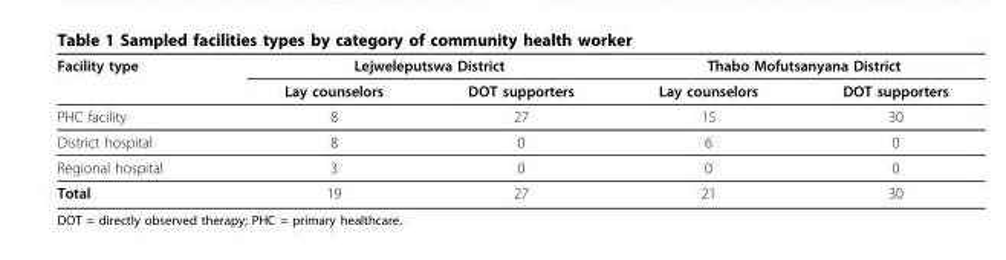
<table><thead><tr><td rowspan="2">Facility type</td><td colspan="2">Lejweleputswa District</td><td colspan="2">Thabo Mofutsanyana District</td></tr><tr><td>Lay counselors</td><td>DOT supporters</td><td>Lay counselors</td><td>DOT supporters</td></tr></thead><tbody><tr><td>PHC facility</td><td>8</td><td>27</td><td>15</td><td>30</td></tr><tr><td>District hospital</td><td>8</td><td>0</td><td>6</td><td>0</td></tr><tr><td>Regional hospital</td><td>3</td><td>0</td><td>0</td><td>0</td></tr><tr><td>Total</td><td>19</td><td>27</td><td>21</td><td>30</td></tr></tbody></table>